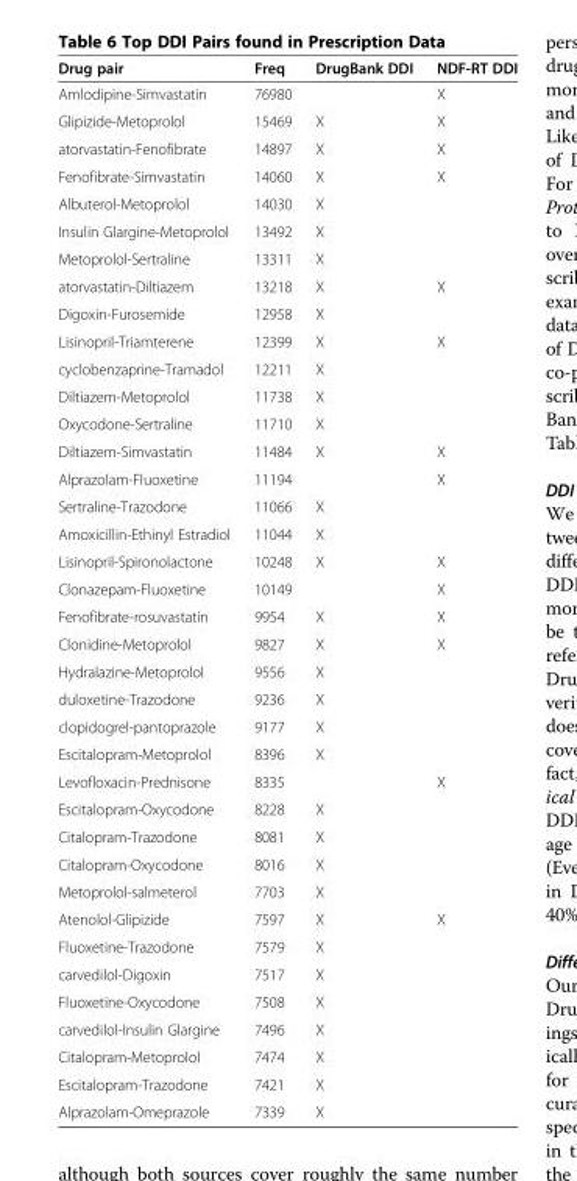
<table><thead><tr><td>Drug pair</td><td>Freq</td><td>DrugBank DDI</td><td>NDF-RT DDI</td></tr></thead><tbody><tr><td>Amlodipine-Simvastatin</td><td>76980</td><td></td><td>X</td></tr><tr><td>Glipizide-Metoprolol</td><td>15469</td><td>X</td><td>X</td></tr><tr><td>atorvastatin-Fenofibrate</td><td>14897</td><td>X</td><td>X</td></tr><tr><td>Fenofibrate-Simvastatin</td><td>14060</td><td>X</td><td>X</td></tr><tr><td>Albuterol-Metoprolol</td><td>14030</td><td>X</td><td></td></tr><tr><td>Insulin Glargine-Metoprolol</td><td>13492</td><td>X</td><td></td></tr><tr><td>Metoprolol-Sertraline</td><td>13311</td><td>X</td><td></td></tr><tr><td>atorvastatin-Diltiazem</td><td>13218</td><td>X</td><td>X</td></tr><tr><td>Digoxin-Furosemide</td><td>12958</td><td>X</td><td></td></tr><tr><td>Lisinopril-Triamterene</td><td>12399</td><td>X</td><td>X</td></tr><tr><td>cyclobenzaprine-Tramadol</td><td>12211</td><td>X</td><td></td></tr><tr><td>Diltiazem-Metoprolol</td><td>11738</td><td>X</td><td></td></tr><tr><td>Oxycodone-Sertraline</td><td>11710</td><td>X</td><td></td></tr><tr><td>Diltiazem-Simvastatin</td><td>11484</td><td>X</td><td>X</td></tr><tr><td>Alprazolam-Fluoxetine</td><td>11194</td><td></td><td>X</td></tr><tr><td>Sertraline-Trazodone</td><td>11066</td><td>X</td><td></td></tr><tr><td>Amoxicillin-Ethinyl Estradiol</td><td>11044</td><td>X</td><td></td></tr><tr><td>Lisinopril-Spironolactone</td><td>10248</td><td>X</td><td>X</td></tr><tr><td>Clonazepam-Fluoxetine</td><td>10149</td><td></td><td>X</td></tr><tr><td>Fenofibrate-rosuvastatin</td><td>9954</td><td>X</td><td>X</td></tr><tr><td>Clonidine-Metoprolol</td><td>9827</td><td>X</td><td>X</td></tr><tr><td>Hydralazine-Metoprolol</td><td>9556</td><td>X</td><td></td></tr><tr><td>duloxetine-Trazodone</td><td>9236</td><td>X</td><td></td></tr><tr><td>clopidogrel-pantoprazole</td><td>9177</td><td>X</td><td></td></tr><tr><td>Escitalopram-Metoprolol</td><td>8396</td><td>X</td><td></td></tr><tr><td>Levofloxacin-Prednisone</td><td>8335</td><td></td><td>X</td></tr><tr><td>Escitalopram-Oxycodone</td><td>8228</td><td>X</td><td></td></tr><tr><td>Citalopram-Trazodone</td><td>8081</td><td>X</td><td></td></tr><tr><td>Citalopram-Oxycodone</td><td>8016</td><td>X</td><td></td></tr><tr><td>Metoprolol-salmeterol</td><td>7703</td><td>X</td><td></td></tr><tr><td>Atenolol-Glipizide</td><td>7597</td><td>X</td><td>X</td></tr><tr><td>Fluoxetine-Trazodone</td><td>7579</td><td>X</td><td></td></tr><tr><td>carvedilol-Digoxin</td><td>7517</td><td>X</td><td></td></tr><tr><td>Fluoxetine-Oxycodone</td><td>7508</td><td>X</td><td></td></tr><tr><td>carvedilol-Insulin Glargine</td><td>7496</td><td>X</td><td></td></tr><tr><td>Citalopram-Metoprolol</td><td>7474</td><td>X</td><td></td></tr><tr><td>Escitalopram-Trazodone</td><td>7421</td><td>X</td><td></td></tr><tr><td>Alprazolam-Omeprazole</td><td>7339</td><td>X</td><td></td></tr></tbody></table>